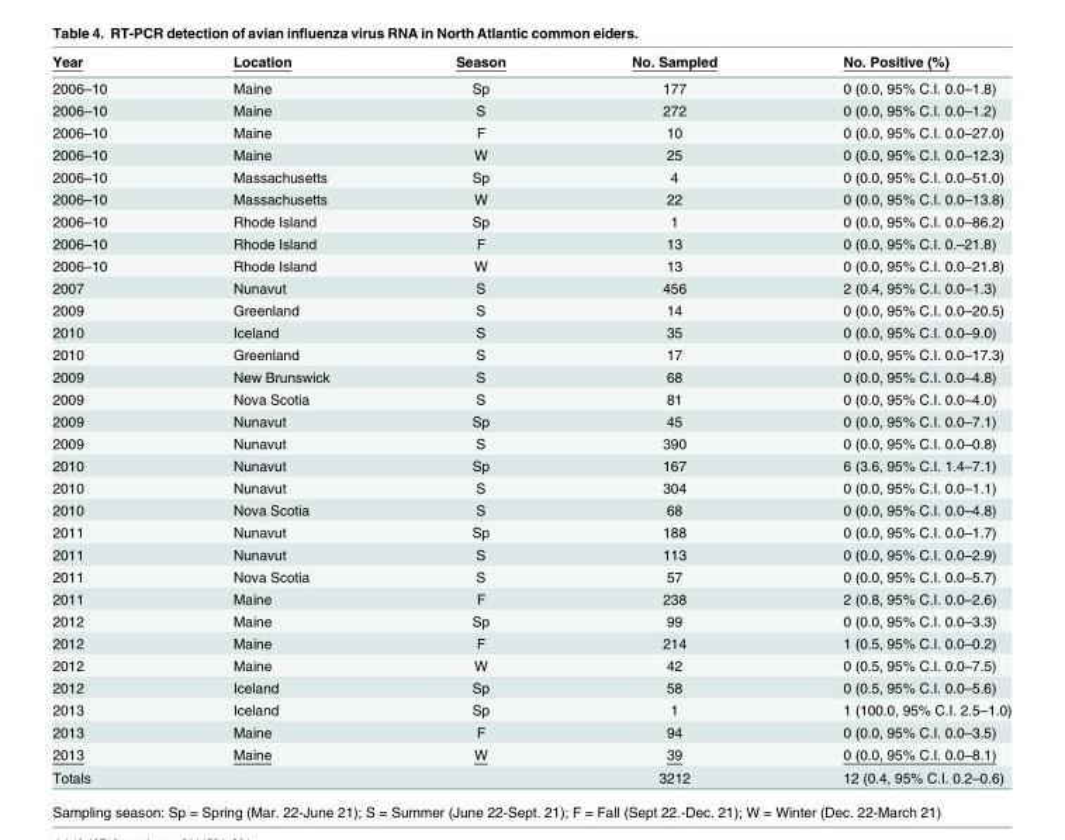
<table><thead><tr><td>Year</td><td>Location</td><td>Season</td><td>No. Sampled</td><td>No. Positive (%)</td></tr></thead><tbody><tr><td>2006–10</td><td>Maine</td><td>Sp</td><td>177</td><td>0 (0.0, 95% C.I. 0.0–1.8)</td></tr><tr><td>2006–10</td><td>Maine</td><td>S</td><td>272</td><td>0 (0.0, 95% C.I. 0.0–1.2)</td></tr><tr><td>2006–10</td><td>Maine</td><td>F</td><td>10</td><td>0 (0.0, 95% C.I. 0.0–27.0)</td></tr><tr><td>2006–10</td><td>Maine</td><td>W</td><td>25</td><td>0 (0.0, 95% C.I. 0.0–12.3)</td></tr><tr><td>2006–10</td><td>Massachusetts</td><td>Sp</td><td>4</td><td>0 (0.0, 95% C.I. 0.0–51.0)</td></tr><tr><td>2006–10</td><td>Massachusetts</td><td>W</td><td>22</td><td>0 (0.0, 95% C.I. 0.0–13.8)</td></tr><tr><td>2006–10</td><td>Rhode Island</td><td>Sp</td><td>1</td><td>0 (0.0, 95% C.I. 0.0–86.2)</td></tr><tr><td>2006–10</td><td>Rhode Island</td><td>F</td><td>13</td><td>0 (0.0, 95% C.I. 0.–21.8)</td></tr><tr><td>2006–10</td><td>Rhode Island</td><td>W</td><td>13</td><td>0 (0.0, 95% C.I. 0.0–21.8)</td></tr><tr><td>2007</td><td>Nunavut</td><td>S</td><td>456</td><td>2 (0.4, 95% C.I. 0.0–1.3)</td></tr><tr><td>2009</td><td>Greenland</td><td>S</td><td>14</td><td>0 (0.0, 95% C.I. 0.0–20.5)</td></tr><tr><td>2010</td><td>Iceland</td><td>S</td><td>35</td><td>0 (0.0, 95% C.I. 0.0–9.0)</td></tr><tr><td>2010</td><td>Greenland</td><td>S</td><td>17</td><td>0 (0.0, 95% C.I. 0.0–17.3)</td></tr><tr><td>2009</td><td>New Brunswick</td><td>S</td><td>68</td><td>0 (0.0, 95% C.I. 0.0–4.8)</td></tr><tr><td>2009</td><td>Nova Scotia</td><td>S</td><td>81</td><td>0 (0.0, 95% C.I. 0.0–4.0)</td></tr><tr><td>2009</td><td>Nunavut</td><td>Sp</td><td>45</td><td>0 (0.0, 95% C.I. 0.0–7.1)</td></tr><tr><td>2009</td><td>Nunavut</td><td>S</td><td>390</td><td>0 (0.0, 95% C.I. 0.0–0.8)</td></tr><tr><td>2010</td><td>Nunavut</td><td>Sp</td><td>167</td><td>6 (3.6, 95% C.I. 1.4–7.1)</td></tr><tr><td>2010</td><td>Nunavut</td><td>S</td><td>304</td><td>0 (0.0, 95% C.I. 0.0–1.1)</td></tr><tr><td>2010</td><td>Nova Scotia</td><td>S</td><td>68</td><td>0 (0.0, 95% C.I. 0.0–4.8)</td></tr><tr><td>2011</td><td>Nunavut</td><td>Sp</td><td>188</td><td>0 (0.0, 95% C.I. 0.0–1.7)</td></tr><tr><td>2011</td><td>Nunavut</td><td>S</td><td>113</td><td>0 (0.0, 95% C.I. 0.0–2.9)</td></tr><tr><td>2011</td><td>Nova Scotia</td><td>S</td><td>57</td><td>0 (0.0, 95% C.I. 0.0–5.7)</td></tr><tr><td>2011</td><td>Maine</td><td>F</td><td>238</td><td>2 (0.8, 95% C.I. 0.0–2.6)</td></tr><tr><td>2012</td><td>Maine</td><td>Sp</td><td>99</td><td>0 (0.0, 95% C.I. 0.0–3.3)</td></tr><tr><td>2012</td><td>Maine</td><td>F</td><td>214</td><td>1 (0.5, 95% C.I. 0.0–0.2)</td></tr><tr><td>2012</td><td>Maine</td><td>W</td><td>42</td><td>0 (0.5, 95% C.I. 0.0–7.5)</td></tr><tr><td>2012</td><td>Iceland</td><td>Sp</td><td>58</td><td>0 (0.5, 95% C.I. 0.0–5.6)</td></tr><tr><td>2013</td><td>Iceland</td><td>Sp</td><td>1</td><td>1 (100.0, 95% C.I. 2.5–1.0)</td></tr><tr><td>2013</td><td>Maine</td><td>F</td><td>94</td><td>0 (0.0, 95% C.I. 0.0–3.5)</td></tr><tr><td>2013</td><td>Maine</td><td>W</td><td>39</td><td>0 (0.0, 95% C.I. 0.0–8.1)</td></tr><tr><td>Totals</td><td></td><td></td><td>3212</td><td>12 (0.4, 95% C.I. 0.2–0.6)</td></tr></tbody></table>